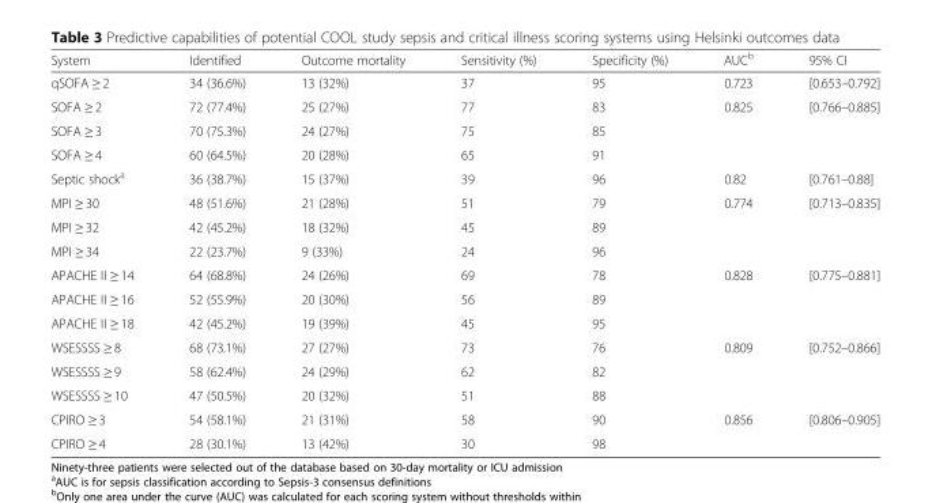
<table><thead><tr><td>System</td><td>Identified</td><td>Outcome mortality</td><td>Sensitivity (%)</td><td>Specificity (%)</td><td>AUC<sup>b</sup></td><td>95% CI</td></tr></thead><tbody><tr><td>qSOFA ≥ 2</td><td>34 (36.6%)</td><td>13 (32%)</td><td>37</td><td>95</td><td>0.723</td><td>[0.653–0.792]</td></tr><tr><td>SOFA ≥ 2</td><td>72 (77.4%)</td><td>25 (27%)</td><td>77</td><td>83</td><td>0.825</td><td>[0.766–0.885]</td></tr><tr><td>SOFA ≥ 3</td><td>70 (75.3%)</td><td>24 (27%)</td><td>75</td><td>85</td><td></td><td></td></tr><tr><td>SOFA ≥ 4</td><td>60 (64.5%)</td><td>20 (28%)</td><td>65</td><td>91</td><td></td><td></td></tr><tr><td>Septic shock<sup>a</sup></td><td>36 (38.7%)</td><td>15 (37%)</td><td>39</td><td>96</td><td>0.82</td><td>[0.761–0.88]</td></tr><tr><td>MPI ≥ 30</td><td>48 (51.6%)</td><td>21 (28%)</td><td>51</td><td>79</td><td>0.774</td><td>[0.713–0.835]</td></tr><tr><td>MPI ≥ 32</td><td>42 (45.2%)</td><td>18 (32%)</td><td>45</td><td>89</td><td></td><td></td></tr><tr><td>MPI ≥ 34</td><td>22 (23.7%)</td><td>9 (33%)</td><td>24</td><td>96</td><td></td><td></td></tr><tr><td>APACHE II ≥ 14</td><td>64 (68.8%)</td><td>24 (26%)</td><td>69</td><td>78</td><td>0.828</td><td>[0.775–0.881]</td></tr><tr><td>APACHE II ≥ 16</td><td>52 (55.9%)</td><td>20 (30%)</td><td>56</td><td>89</td><td></td><td></td></tr><tr><td>APACHE II ≥ 18</td><td>42 (45.2%)</td><td>19 (39%)</td><td>45</td><td>95</td><td></td><td></td></tr><tr><td>WSESSSS ≥ 8</td><td>68 (73.1%)</td><td>27 (27%)</td><td>73</td><td>76</td><td>0.809</td><td>[0.752–0.866]</td></tr><tr><td>WSESSSS ≥ 9</td><td>58 (62.4%)</td><td>24 (29%)</td><td>62</td><td>82</td><td></td><td></td></tr><tr><td>WSESSSS ≥ 10</td><td>47 (50.5%)</td><td>20 (32%)</td><td>51</td><td>88</td><td></td><td></td></tr><tr><td>CPIRO ≥ 3</td><td>54 (58.1%)</td><td>21 (31%)</td><td>58</td><td>90</td><td>0.856</td><td>[0.806–0.905]</td></tr><tr><td>CPIRO ≥ 4</td><td>28 (30.1%)</td><td>13 (42%)</td><td>30</td><td>98</td><td></td><td></td></tr></tbody></table>